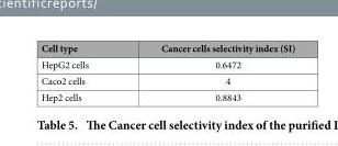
<table><thead><tr><td>Cell type</td><td>Cancer cells selectivity index (SI)</td></tr></thead><tbody><tr><td>HepG2 cells</td><td>0.6472</td></tr><tr><td>Caco2 cells</td><td>4</td></tr><tr><td>Hep2 cells</td><td>0.8843</td></tr></tbody></table>